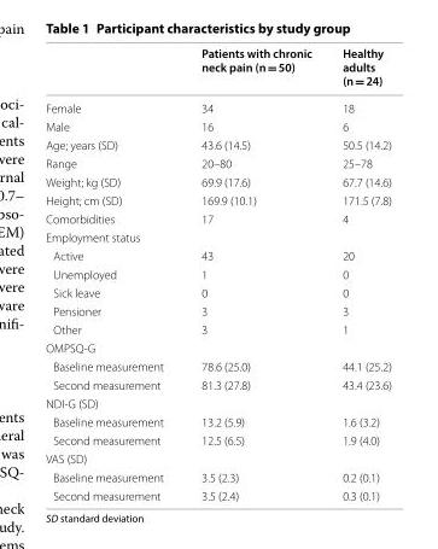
<table><thead><tr><td></td><td>Patients with chronic neck pain (n = 50)</td><td>Healthy adults (n = 24)</td></tr></thead><tbody><tr><td>Female</td><td>34</td><td>18</td></tr><tr><td>Male</td><td>16</td><td>6</td></tr><tr><td>Age; years (SD)</td><td>43.6 (14.5)</td><td>50.5 (14.2)</td></tr><tr><td>Range</td><td>20–80</td><td>25–78</td></tr><tr><td>Weight; kg (SD)</td><td>69.9 (17.6)</td><td>67.7 (14.6)</td></tr><tr><td>Height; cm (SD)</td><td>169.9 (10.1)</td><td>171.5 (7.8)</td></tr><tr><td>Comorbidities</td><td>17</td><td>4</td></tr><tr><td colspan="3">Employment status</td></tr><tr><td>Active</td><td>43</td><td>20</td></tr><tr><td>Unemployed</td><td>1</td><td>0</td></tr><tr><td>Sick leave</td><td>0</td><td>0</td></tr><tr><td>Pensioner</td><td>3</td><td>3</td></tr><tr><td>Other</td><td>3</td><td>1</td></tr><tr><td colspan="3">OMPSQ-G</td></tr><tr><td>Baseline measurement</td><td>78.6 (25.0)</td><td>44.1 (25.2)</td></tr><tr><td>Second measurement</td><td>81.3 (27.8)</td><td>43.4 (23.6)</td></tr><tr><td colspan="3">NDI-G (SD)</td></tr><tr><td>Baseline measurement</td><td>13.2 (5.9)</td><td>1.6 (3.2)</td></tr><tr><td>Second measurement</td><td>12.5 (6.5)</td><td>1.9 (4.0)</td></tr><tr><td colspan="3">VAS (SD)</td></tr><tr><td>Baseline measurement</td><td>3.5 (2.3)</td><td>0.2 (0.1)</td></tr><tr><td>Second measurement</td><td>3.5 (2.4)</td><td>0.3 (0.1)</td></tr></tbody></table>